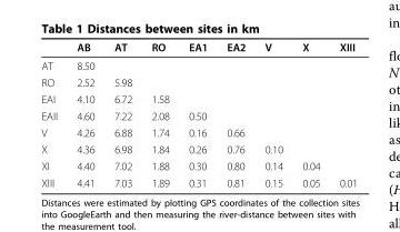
<table><thead><tr><td></td><td>AB</td><td>AT</td><td>RO</td><td>EA1</td><td>EA2</td><td>V</td><td>X</td><td>XIII</td></tr></thead><tbody><tr><td>AT</td><td>8.50</td><td></td><td></td><td></td><td></td><td></td><td></td><td></td></tr><tr><td>RO</td><td>2.52</td><td>5.98</td><td></td><td></td><td></td><td></td><td></td><td></td></tr><tr><td>EAI</td><td>4.10</td><td>6.72</td><td>1.58</td><td></td><td></td><td></td><td></td><td></td></tr><tr><td>EAII</td><td>4.60</td><td>7.22</td><td>2.08</td><td>0.50</td><td></td><td></td><td></td><td></td></tr><tr><td>V</td><td>4.26</td><td>6.88</td><td>1.74</td><td>0.16</td><td>0.66</td><td></td><td></td><td></td></tr><tr><td>X</td><td>4.36</td><td>6.98</td><td>1.84</td><td>0.26</td><td>0.76</td><td>0.10</td><td></td><td></td></tr><tr><td>XI</td><td>4.40</td><td>7.02</td><td>1.88</td><td>0.30</td><td>0.80</td><td>0.14</td><td>0.04</td><td></td></tr><tr><td>XIII</td><td>4.41</td><td>7.03</td><td>1.89</td><td>0.31</td><td>0.81</td><td>0.15</td><td>0.05</td><td>0.01</td></tr></tbody></table>